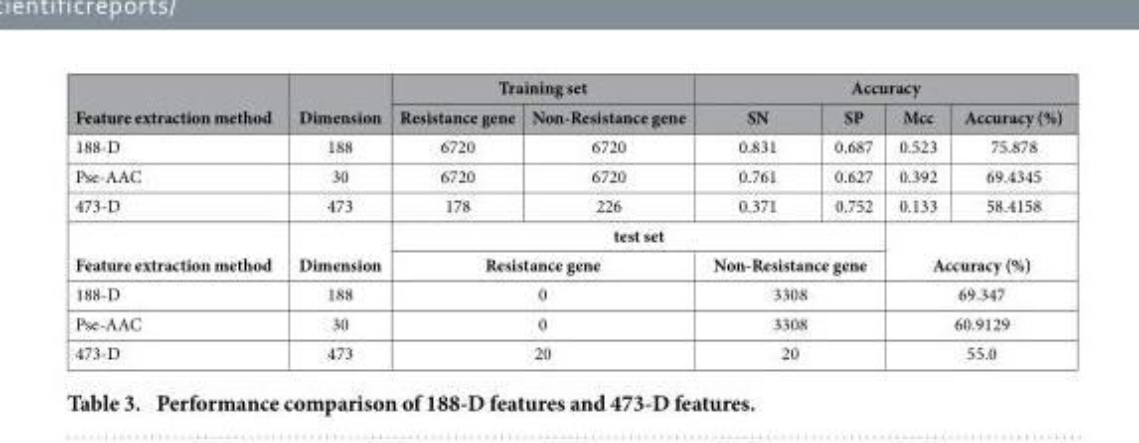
<table><thead><tr><td rowspan="2">Feature extraction method</td><td rowspan="2">Dimension</td><td colspan="2">Training set</td><td colspan="4">Accuracy</td></tr><tr><td>Resistance gene</td><td>Non-Resistance gene</td><td>SN</td><td>SP</td><td>Mcc</td><td>Accuracy (%)</td></tr></thead><tbody><tr><td>188-D</td><td>188</td><td>6720</td><td>6720</td><td>0.831</td><td>0.687</td><td>0.523</td><td>75.878</td></tr><tr><td>Pse-AAC</td><td>30</td><td>6720</td><td>6720</td><td>0.761</td><td>0.627</td><td>0.392</td><td>69.4345</td></tr><tr><td>473-D</td><td>473</td><td>178</td><td>226</td><td>0.371</td><td>0.752</td><td>0.133</td><td>58.4158</td></tr><tr><td rowspan="2">Feature extraction method</td><td rowspan="2">Dimension</td><td colspan="4">test set</td><td colspan="2"></td></tr><tr><td colspan="2">Resistance gene</td><td colspan="2">Non-Resistance gene</td><td colspan="2">Accuracy (%)</td></tr><tr><td>188-D</td><td>188</td><td colspan="2">0</td><td colspan="2">3308</td><td colspan="2">69.347</td></tr><tr><td>Pse-AAC</td><td>30</td><td colspan="2">0</td><td colspan="2">3308</td><td colspan="2">60.9129</td></tr><tr><td>473-D</td><td>473</td><td colspan="2">20</td><td colspan="2">20</td><td colspan="2">55.0</td></tr></tbody></table>